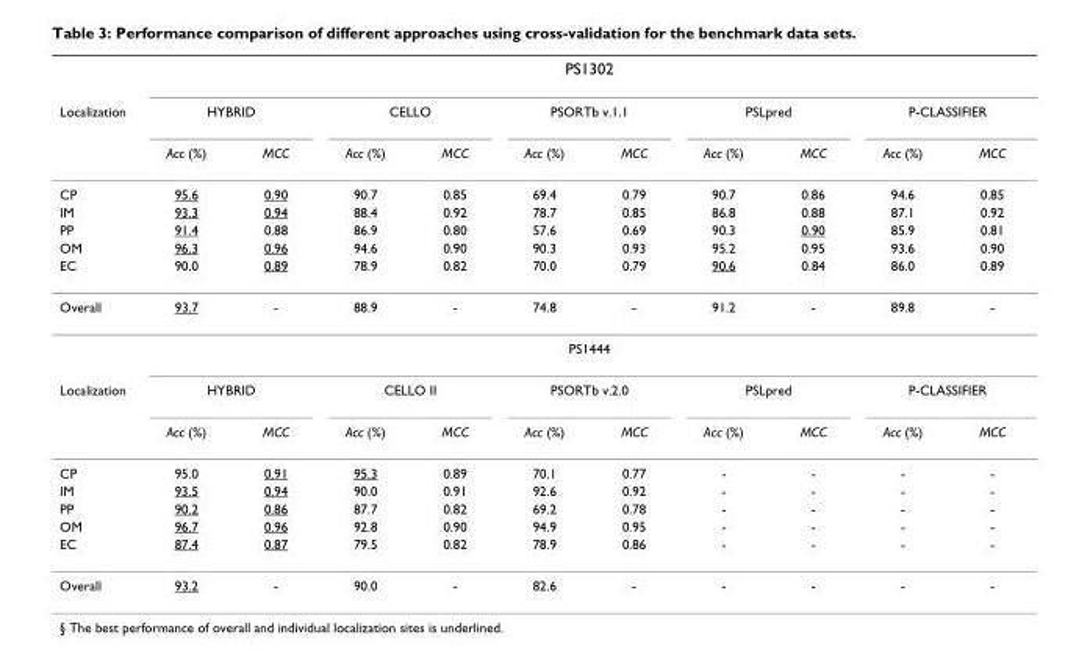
<table><thead><tr><td rowspan="3">Localization</td><td colspan="10">PS1302</td></tr><tr><td colspan="2">HYBRID</td><td colspan="2">CELLO</td><td colspan="2">PSORTb v.1.1</td><td colspan="2">PSLpred</td><td colspan="2">P-CLASSIFIER</td></tr><tr><td>Acc (%)</td><td>MCC</td><td>Acc (%)</td><td>MCC</td><td>Acc (%)</td><td>MCC</td><td>Acc (%)</td><td>MCC</td><td>Acc (%)</td><td>MCC</td></tr></thead><tbody><tr><td>CP</td><td>95.6</td><td>0.90</td><td>90.7</td><td>0.85</td><td>69.4</td><td>0.79</td><td>90.7</td><td>0.86</td><td>94.6</td><td>0.85</td></tr><tr><td>IM</td><td>93.3</td><td>0.94</td><td>88.4</td><td>0.92</td><td>78.7</td><td>0.85</td><td>86.8</td><td>0.88</td><td>87.1</td><td>0.92</td></tr><tr><td>PP</td><td>91.4</td><td>0.88</td><td>86.9</td><td>0.80</td><td>57.6</td><td>0.69</td><td>90.3</td><td>0.90</td><td>85.9</td><td>0.81</td></tr><tr><td>OM</td><td>96.3</td><td>0.96</td><td>94.6</td><td>0.90</td><td>90.3</td><td>0.93</td><td>95.2</td><td>0.95</td><td>93.6</td><td>0.90</td></tr><tr><td>EC</td><td>90.0</td><td>0.89</td><td>78.9</td><td>0.82</td><td>70.0</td><td>0.79</td><td>90.6</td><td>0.84</td><td>86.0</td><td>0.89</td></tr><tr><td rowspan="2">Overall</td><td>93.7</td><td>-</td><td>88.9</td><td>-</td><td>74.8</td><td>-</td><td>91.2</td><td>-</td><td>89.8</td><td>-</td></tr><tr><td colspan="10">PS1444</td></tr><tr><td rowspan="2">Localization</td><td colspan="2">HYBRID</td><td colspan="2">CELLO II</td><td colspan="2">PSORTb v.2.0</td><td colspan="2">PSLpred</td><td colspan="2">P-CLASSIFIER</td></tr><tr><td>Acc (%)</td><td>MCC</td><td>Acc (%)</td><td>MCC</td><td>Acc (%)</td><td>MCC</td><td>Acc (%)</td><td>MCC</td><td>Acc (%)</td><td>MCC</td></tr><tr><td>CP</td><td>95.0</td><td>0.91</td><td>95.3</td><td>0.89</td><td>70.1</td><td>0.77</td><td>-</td><td>-</td><td>-</td><td>-</td></tr><tr><td>IM</td><td>93.5</td><td>0.94</td><td>90.0</td><td>0.91</td><td>92.6</td><td>0.92</td><td>-</td><td>-</td><td>-</td><td>-</td></tr><tr><td>PP</td><td>90.2</td><td>0.86</td><td>87.7</td><td>0.82</td><td>69.2</td><td>0.78</td><td>-</td><td>-</td><td>-</td><td>-</td></tr><tr><td>OM</td><td>96.7</td><td>0.96</td><td>92.8</td><td>0.90</td><td>94.9</td><td>0.95</td><td>-</td><td>-</td><td>-</td><td>-</td></tr><tr><td>EC</td><td>87.4</td><td>0.87</td><td>79.5</td><td>0.82</td><td>78.9</td><td>0.86</td><td>-</td><td>-</td><td>-</td><td>-</td></tr><tr><td>Overall</td><td>93.2</td><td>-</td><td>90.0</td><td>-</td><td>82.6</td><td>-</td><td>-</td><td>-</td><td>-</td><td>-</td></tr></tbody></table>